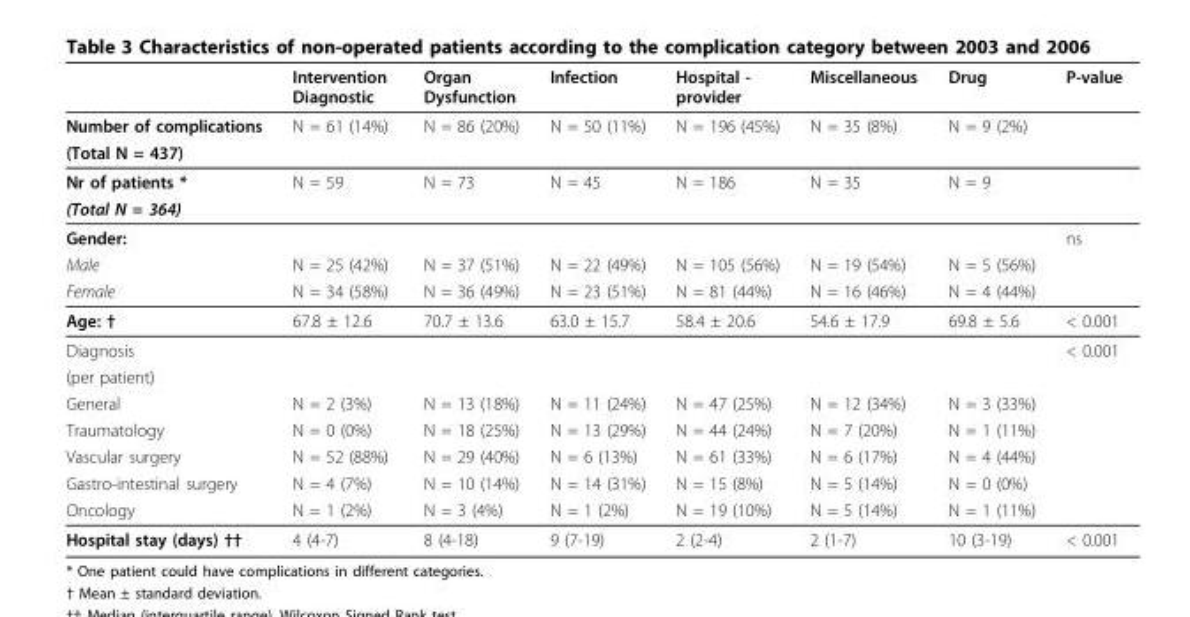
<table><thead><tr><td></td><td>Intervention Diagnostic</td><td>Organ Dysfunction</td><td>Infection</td><td>Hospital - provider</td><td>Miscellaneous</td><td>Drug</td><td>P-value</td></tr></thead><tbody><tr><td>Number of complications</td><td>N = 61 (14%)</td><td>N = 86 (20%)</td><td>N = 50 (11%)</td><td>N = 196 (45%)</td><td>N = 35 (8%)</td><td>N = 9 (2%)</td><td></td></tr><tr><td colspan="8">(Total N = 437)</td></tr><tr><td>Nr of patients *</td><td>N = 59</td><td>N = 73</td><td>N = 45</td><td>N = 186</td><td>N = 35</td><td>N = 9</td><td></td></tr><tr><td colspan="8">(Total N = 364)</td></tr><tr><td>Gender:</td><td></td><td></td><td></td><td></td><td></td><td></td><td>ns</td></tr><tr><td>Male</td><td>N = 25 (42%)</td><td>N = 37 (51%)</td><td>N = 22 (49%)</td><td>N = 105 (56%)</td><td>N = 19 (54%)</td><td>N = 5 (56%)</td><td></td></tr><tr><td>Female</td><td>N = 34 (58%)</td><td>N = 36 (49%)</td><td>N = 23 (51%)</td><td>N = 81 (44%)</td><td>N = 16 (46%)</td><td>N = 4 (44%)</td><td></td></tr><tr><td>Age: †</td><td>67.8 ± 12.6</td><td>70.7 ± 13.6</td><td>63.0 ± 15.7</td><td>58.4 ± 20.6</td><td>54.6 ± 17.9</td><td>69.8 ± 5.6</td><td>&lt; 0.001</td></tr><tr><td>Diagnosis</td><td></td><td></td><td></td><td></td><td></td><td></td><td>&lt; 0.001</td></tr><tr><td colspan="8">(per patient)</td></tr><tr><td>General</td><td>N = 2 (3%)</td><td>N = 13 (18%)</td><td>N = 11 (24%)</td><td>N = 47 (25%)</td><td>N = 12 (34%)</td><td>N = 3 (33%)</td><td></td></tr><tr><td>Traumatology</td><td>N = 0 (0%)</td><td>N = 18 (25%)</td><td>N = 13 (29%)</td><td>N = 44 (24%)</td><td>N = 7 (20%)</td><td>N = 1 (11%)</td><td></td></tr><tr><td>Vascular surgery</td><td>N = 52 (88%)</td><td>N = 29 (40%)</td><td>N = 6 (13%)</td><td>N = 61 (33%)</td><td>N = 6 (17%)</td><td>N = 4 (44%)</td><td></td></tr><tr><td>Gastro-intestinal surgery</td><td>N = 4 (7%)</td><td>N = 10 (14%)</td><td>N = 14 (31%)</td><td>N = 15 (8%)</td><td>N = 5 (14%)</td><td>N = 0 (0%)</td><td></td></tr><tr><td>Oncology</td><td>N = 1 (2%)</td><td>N = 3 (4%)</td><td>N = 1 (2%)</td><td>N = 19 (10%)</td><td>N = 5 (14%)</td><td>N = 1 (11%)</td><td></td></tr><tr><td>Hospital stay (days) ††</td><td>4 (4-7)</td><td>8 (4-18)</td><td>9 (7-19)</td><td>2 (2-4)</td><td>2 (1-7)</td><td>10 (3-19)</td><td>&lt; 0.001</td></tr></tbody></table>